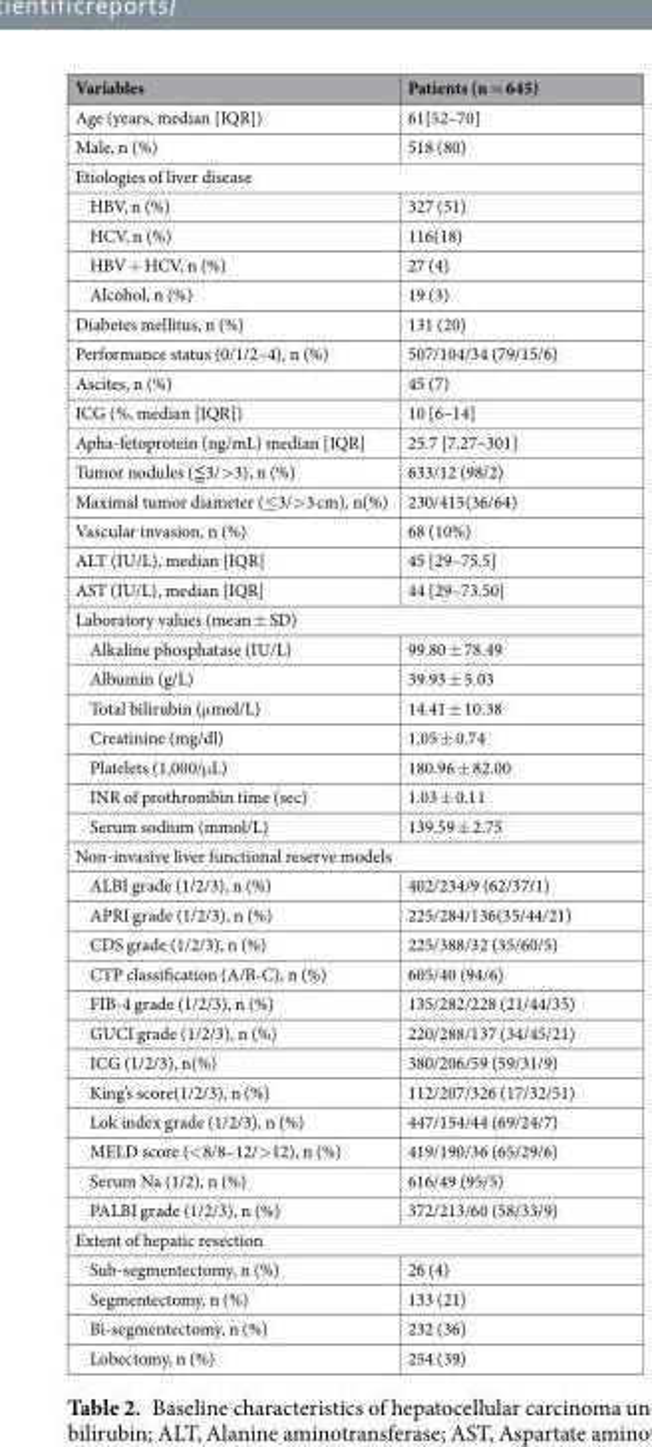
<table><thead><tr><td>Variables</td><td>Patients (n = 645)</td></tr></thead><tbody><tr><td>Age (years, median [IQR])</td><td>61[52–70]</td></tr><tr><td>Male, n (%)</td><td>518 (80)</td></tr><tr><td colspan="2">Etiologies of liver disease</td></tr><tr><td>HBV, n (%)</td><td>327 (51)</td></tr><tr><td>HCV, n (%)</td><td>116(18)</td></tr><tr><td>HBV + HCV, n (%)</td><td>27 (4)</td></tr><tr><td>Alcohol, n (%)</td><td>19 (3)</td></tr><tr><td>Diabetes mellitus, n (%)</td><td>131 (20)</td></tr><tr><td>Performance status (0/1/2–4), n (%)</td><td>507/104/34 (79/15/6)</td></tr><tr><td>Ascites, n (%)</td><td>45 (7)</td></tr><tr><td>ICG (%, median [IQR])</td><td>10 [6–14]</td></tr><tr><td>Apha-fetoprotein (ng/mL) median [IQR]</td><td>25.7 [7.27–301]</td></tr><tr><td>Tumor nodules (≦3/&gt;3), n (%)</td><td>633/12 (98/2)</td></tr><tr><td>Maximal tumor diameter (≤3/&gt;3 cm), n(%)</td><td>230/415(36/64)</td></tr><tr><td>Vascular invasion, n (%)</td><td>68 (10%)</td></tr><tr><td>ALT (IU/L), median [IQR]</td><td>45 [29–75.5]</td></tr><tr><td>AST (IU/L), median [IQR]</td><td>44 [29–73.50]</td></tr><tr><td colspan="2">Laboratory values (mean ± SD)</td></tr><tr><td>Alkaline phosphatase (IU/L)</td><td>99.80 ± 78.49</td></tr><tr><td>Albumin (g/L)</td><td>39.93 ± 5.03</td></tr><tr><td>Total bilirubin (μmol/L)</td><td>14.41 ± 10.38</td></tr><tr><td>Creatinine (mg/dl)</td><td>1.05 ± 0.74</td></tr><tr><td>Platelets (1,000/μL)</td><td>180.96 ± 82.00</td></tr><tr><td>INR of prothrombin time (sec)</td><td>1.03 ± 0.11</td></tr><tr><td>Serum sodium (mmol/L)</td><td>139.59 ± 2.75</td></tr><tr><td colspan="2">Non-invasive liver functional reserve models</td></tr><tr><td>ALBI grade (1/2/3), n (%)</td><td>402/234/9 (62/37/1)</td></tr><tr><td>APRI grade (1/2/3), n (%)</td><td>225/284/136(35/44/21)</td></tr><tr><td>CDS grade (1/2/3), n (%)</td><td>225/388/32 (35/60/5)</td></tr><tr><td>CTP classification (A/B-C), n (%)</td><td>605/40 (94/6)</td></tr><tr><td>FIB-4 grade (1/2/3), n (%)</td><td>135/282/228 (21/44/35)</td></tr><tr><td>GUCI grade (1/2/3), n (%)</td><td>220/288/137 (34/45/21)</td></tr><tr><td>ICG (1/2/3), n(%)</td><td>380/206/59 (59/31/9)</td></tr><tr><td>King’s score(1/2/3), n (%)</td><td>112/207/326 (17/32/51)</td></tr><tr><td>Lok index grade (1/2/3), n (%)</td><td>447/154/44 (69/24/7)</td></tr><tr><td>MELD score (&lt;8/8–12/&gt;12), n (%)</td><td>419/190/36 (65/29/6)</td></tr><tr><td>Serum Na (1/2), n (%)</td><td>616/49 (95/5)</td></tr><tr><td>PALBI grade (1/2/3), n (%)</td><td>372/213/60 (58/33/9)</td></tr><tr><td colspan="2">Extent of hepatic resection</td></tr><tr><td>Sub-segmentectomy, n (%)</td><td>26 (4)</td></tr><tr><td>Segmentectomy, n (%)</td><td>133 (21)</td></tr><tr><td>Bi-segmentectomy, n (%)</td><td>232 (36)</td></tr><tr><td>Lobectomy, n (%)</td><td>254 (39)</td></tr></tbody></table>